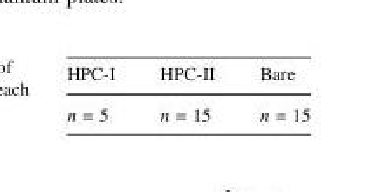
<table><thead><tr><td>HPC-I</td><td>HPC-II</td><td>Bare</td></tr></thead><tbody><tr><td>n = 5</td><td>n = 15</td><td>n = 15</td></tr></tbody></table>